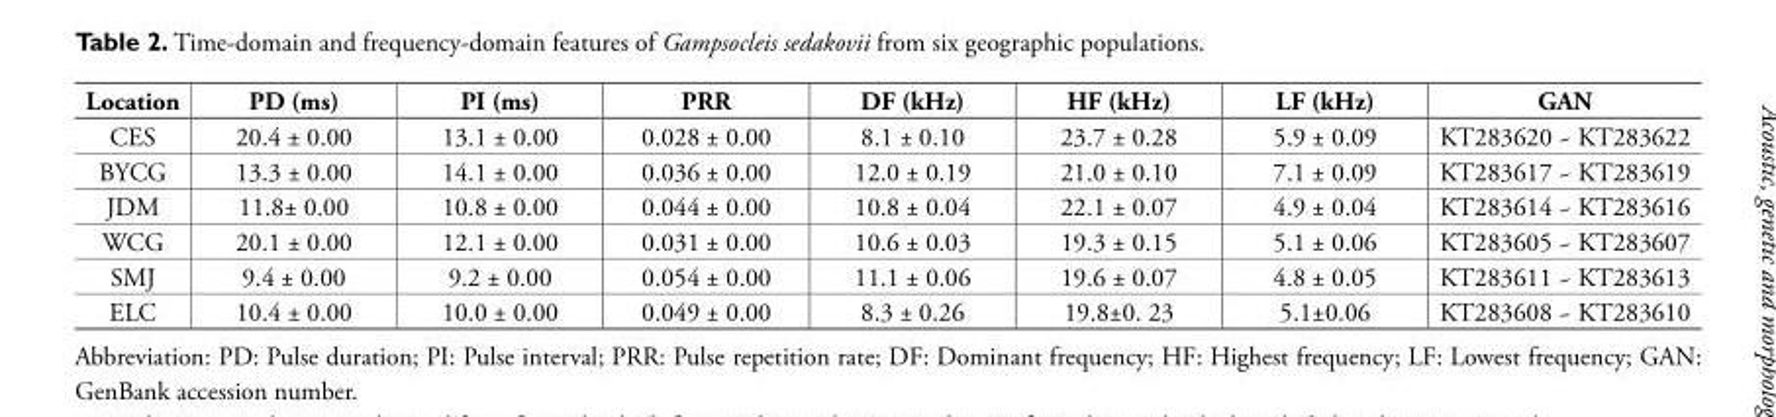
<table><thead><tr><td>Location</td><td>PD (ms)</td><td>PI (ms)</td><td>PRR</td><td>DF (kHz)</td><td>HF (kHz)</td><td>LF (kHz)</td><td>GAN</td></tr></thead><tbody><tr><td>CES</td><td>20.4 ± 0.00</td><td>13.1 ± 0.00</td><td>0.028 ± 0.00</td><td>8.1 ± 0.10</td><td>23.7 ± 0.28</td><td>5.9 ± 0.09</td><td>KT283620 ~ KT283622</td></tr><tr><td>BYCG</td><td>13.3 ± 0.00</td><td>14.1 ± 0.00</td><td>0.036 ± 0.00</td><td>12.0 ± 0.19</td><td>21.0 ± 0.10</td><td>7.1 ± 0.09</td><td>KT283617 ~ KT283619</td></tr><tr><td>JDM</td><td>11.8± 0.00</td><td>10.8 ± 0.00</td><td>0.044 ± 0.00</td><td>10.8 ± 0.04</td><td>22.1 ± 0.07</td><td>4.9 ± 0.04</td><td>KT283614 ~ KT283616</td></tr><tr><td>WCG</td><td>20.1 ± 0.00</td><td>12.1 ± 0.00</td><td>0.031 ± 0.00</td><td>10.6 ± 0.03</td><td>19.3 ± 0.15</td><td>5.1 ± 0.06</td><td>KT283605 ~ KT283607</td></tr><tr><td>SMJ</td><td>9.4 ± 0.00</td><td>9.2 ± 0.00</td><td>0.054 ± 0.00</td><td>11.1 ± 0.06</td><td>19.6 ± 0.07</td><td>4.8 ± 0.05</td><td>KT283611 ~ KT283613</td></tr><tr><td>ELC</td><td>10.4 ± 0.00</td><td>10.0 ± 0.00</td><td>0.049 ± 0.00</td><td>8.3 ± 0.26</td><td>19.8±0. 23</td><td>5.1±0.06</td><td>KT283608 ~ KT283610</td></tr></tbody></table>